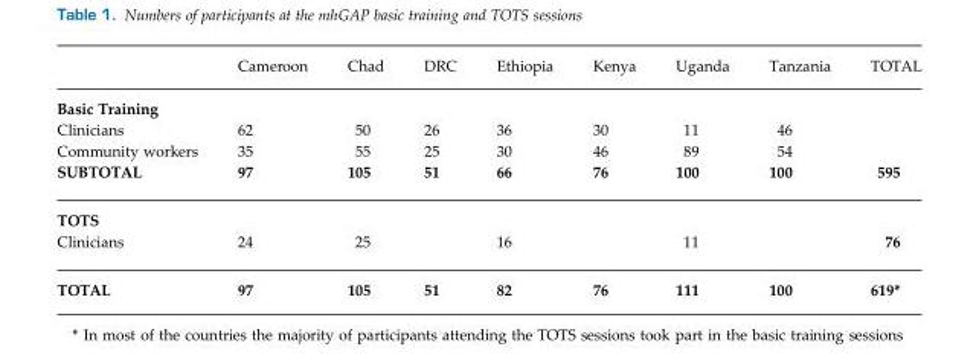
<table><thead><tr><td></td><td>Cameroon</td><td>Chad</td><td>DRC</td><td>Ethiopia</td><td>Kenya</td><td>Uganda</td><td>Tanzania</td><td>TOTAL</td></tr></thead><tbody><tr><td colspan="9">Basic Training</td></tr><tr><td>Clinicians</td><td>62</td><td>50</td><td>26</td><td>36</td><td>30</td><td>11</td><td>46</td><td></td></tr><tr><td>Community workers</td><td>35</td><td>55</td><td>25</td><td>30</td><td>46</td><td>89</td><td>54</td><td></td></tr><tr><td>SUBTOTAL</td><td>97</td><td>105</td><td>51</td><td>66</td><td>76</td><td>100</td><td>100</td><td>595</td></tr><tr><td colspan="9">TOTS</td></tr><tr><td>Clinicians</td><td>24</td><td>25</td><td></td><td>16</td><td></td><td>11</td><td></td><td>76</td></tr><tr><td>TOTAL</td><td>97</td><td>105</td><td>51</td><td>82</td><td>76</td><td>111</td><td>100</td><td>619*</td></tr></tbody></table>